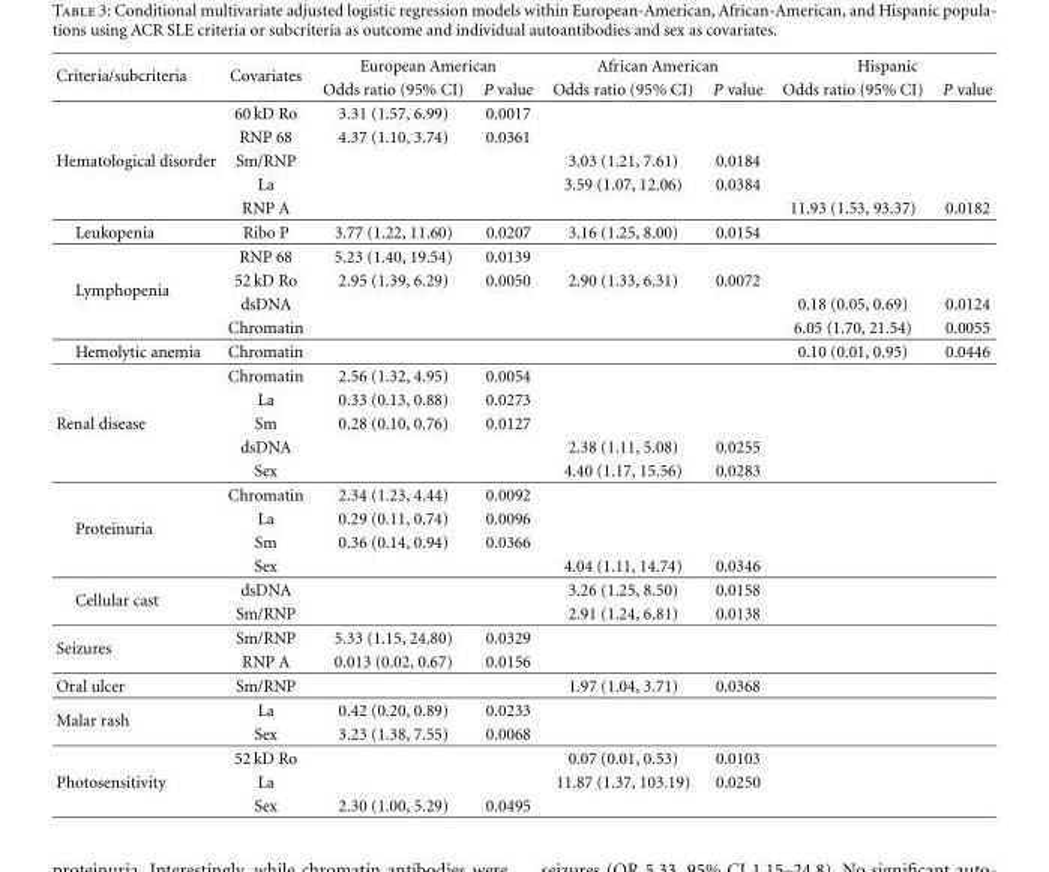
<table><thead><tr><td rowspan="2">Criteria/subcriteria</td><td rowspan="2">Covariates</td><td colspan="2">European American</td><td colspan="2">African American</td><td colspan="2">Hispanic</td></tr><tr><td>Odds ratio (95% CI)</td><td>P value</td><td>Odds ratio (95% CI)</td><td>P value</td><td>Odds ratio (95% CI)</td><td>P value</td></tr></thead><tbody><tr><td></td><td>60 kD Ro</td><td>3.31 (1.57, 6.99)</td><td>0.0017</td><td></td><td></td><td></td><td></td></tr><tr><td></td><td>RNP 68</td><td>4.37 (1.10, 3.74)</td><td>0.0361</td><td></td><td></td><td></td><td></td></tr><tr><td rowspan="3">Hematological disorder</td><td>Sm/RNP</td><td></td><td></td><td>3.03 (1.21, 7.61)</td><td>0.0184</td><td></td><td></td></tr><tr><td>La</td><td></td><td></td><td>3.59 (1.07, 12.06)</td><td>0.0384</td><td></td><td></td></tr><tr><td>RNP A</td><td></td><td></td><td></td><td></td><td>11.93 (1.53, 93.37)</td><td>0.0182</td></tr><tr><td rowspan="2">Leukopenia</td><td>Ribo P</td><td>3.77 (1.22, 11.60)</td><td>0.0207</td><td>3.16 (1.25, 8.00)</td><td>0.0154</td><td></td><td></td></tr><tr><td>RNP 68</td><td>5.23 (1.40, 19.54)</td><td>0.0139</td><td></td><td></td><td></td><td></td></tr><tr><td rowspan="3">Lymphopenia</td><td>52 kD Ro</td><td>2.95 (1.39, 6.29)</td><td>0.0050</td><td>2.90 (1.33, 6.31)</td><td>0.0072</td><td></td><td></td></tr><tr><td>dsDNA</td><td></td><td></td><td></td><td></td><td>0.18 (0.05, 0.69)</td><td>0.0124</td></tr><tr><td>Chromatin</td><td></td><td></td><td></td><td></td><td>6.05 (1.70, 21.54)</td><td>0.0055</td></tr><tr><td rowspan="3">Hemolytic anemia</td><td>Chromatin</td><td></td><td></td><td></td><td></td><td>0.10 (0.01, 0.95)</td><td>0.0446</td></tr><tr><td>Chromatin</td><td>2.56 (1.32, 4.95)</td><td>0.0054</td><td></td><td></td><td></td><td></td></tr><tr><td>La</td><td>0.33 (0.13, 0.88)</td><td>0.0273</td><td></td><td></td><td></td><td></td></tr><tr><td rowspan="4">Renal disease</td><td>Sm</td><td>0.28 (0.10, 0.76)</td><td>0.0127</td><td></td><td></td><td></td><td></td></tr><tr><td>dsDNA</td><td></td><td></td><td>2.38 (1.11, 5.08)</td><td>0.0255</td><td></td><td></td></tr><tr><td>Sex</td><td></td><td></td><td>4.40 (1.17, 15.56)</td><td>0.0283</td><td></td><td></td></tr><tr><td>Chromatin</td><td>2.34 (1.23, 4.44)</td><td>0.0092</td><td></td><td></td><td></td><td></td></tr><tr><td rowspan="3">Proteinuria</td><td>La</td><td>0.29 (0.11, 0.74)</td><td>0.0096</td><td></td><td></td><td></td><td></td></tr><tr><td>Sm</td><td>0.36 (0.14, 0.94)</td><td>0.0366</td><td></td><td></td><td></td><td></td></tr><tr><td>Sex</td><td></td><td></td><td>4.04 (1.11, 14.74)</td><td>0.0346</td><td></td><td></td></tr><tr><td rowspan="2">Cellular cast</td><td>dsDNA</td><td></td><td></td><td>3.26 (1.25, 8.50)</td><td>0.0158</td><td></td><td></td></tr><tr><td>Sm/RNP</td><td></td><td></td><td>2.91 (1.24, 6.81)</td><td>0.0138</td><td></td><td></td></tr><tr><td rowspan="2">Seizures</td><td>Sm/RNP</td><td>5.33 (1.15, 24.80)</td><td>0.0329</td><td></td><td></td><td></td><td></td></tr><tr><td>RNP A</td><td>0.013 (0.02, 0.67)</td><td>0.0156</td><td></td><td></td><td></td><td></td></tr><tr><td>Oral ulcer</td><td>Sm/RNP</td><td></td><td></td><td>1.97 (1.04, 3.71)</td><td>0.0368</td><td></td><td></td></tr><tr><td rowspan="3">Malar rash</td><td>La</td><td>0.42 (0.20, 0.89)</td><td>0.0233</td><td></td><td></td><td></td><td></td></tr><tr><td>Sex</td><td>3.23 (1.38, 7.55)</td><td>0.0068</td><td></td><td></td><td></td><td></td></tr><tr><td>52 kD Ro</td><td></td><td></td><td>0.07 (0.01, 0.53)</td><td>0.0103</td><td></td><td></td></tr><tr><td rowspan="2">Photosensitivity</td><td>La</td><td></td><td></td><td>11.87 (1.37, 103.19)</td><td>0.0250</td><td></td><td></td></tr><tr><td>Sex</td><td>2.30 (1.00, 5.29)</td><td>0.0495</td><td></td><td></td><td></td><td></td></tr></tbody></table>